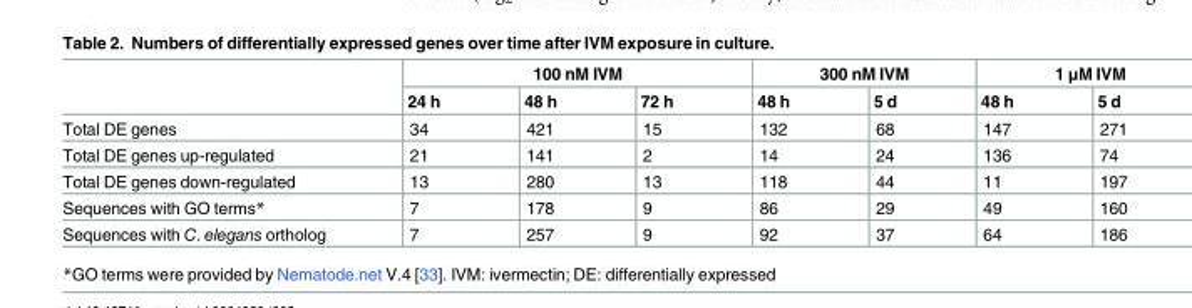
<table><thead><tr><td rowspan="2"></td><td colspan="3">100 nM IVM</td><td colspan="2">300 nM IVM</td><td colspan="2">1 μM IVM</td></tr><tr><td>24 h</td><td>48 h</td><td>72 h</td><td>48 h</td><td>5 d</td><td>48 h</td><td>5 d</td></tr></thead><tbody><tr><td>Total DE genes</td><td>34</td><td>421</td><td>15</td><td>132</td><td>68</td><td>147</td><td>271</td></tr><tr><td>Total DE genes up-regulated</td><td>21</td><td>141</td><td>2</td><td>14</td><td>24</td><td>136</td><td>74</td></tr><tr><td>Total DE genes down-regulated</td><td>13</td><td>280</td><td>13</td><td>118</td><td>44</td><td>11</td><td>197</td></tr><tr><td>Sequences with GO terms*</td><td>7</td><td>178</td><td>9</td><td>86</td><td>29</td><td>49</td><td>160</td></tr><tr><td>Sequences with C. elegans ortholog</td><td>7</td><td>257</td><td>9</td><td>92</td><td>37</td><td>64</td><td>186</td></tr></tbody></table>